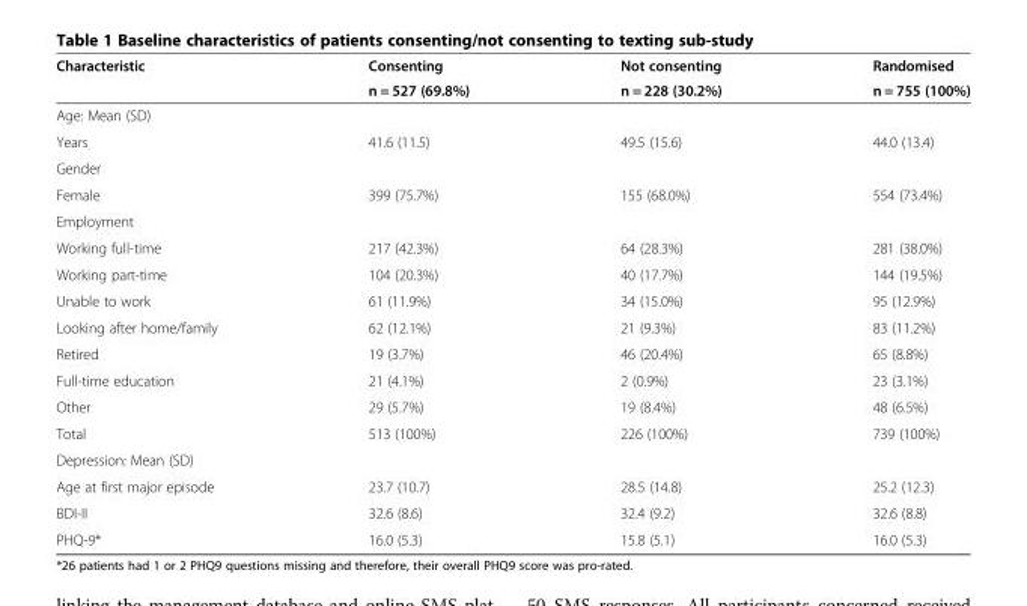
<table><thead><tr><td rowspan="2">Characteristic</td><td rowspan="2">Consenting n = 527 (69.8%)</td><td rowspan="2">Not consenting n = 228 (30.2%)</td><td rowspan="2">Randomised n = 755 (100%)</td></tr><tr></tr></thead><tbody><tr><td colspan="4">Age: Mean (SD)</td></tr><tr><td>Years</td><td>41.6 (11.5)</td><td>49.5 (15.6)</td><td>44.0 (13.4)</td></tr><tr><td colspan="4">Gender</td></tr><tr><td>Female</td><td>399 (75.7%)</td><td>155 (68.0%)</td><td>554 (73.4%)</td></tr><tr><td colspan="4">Employment</td></tr><tr><td>Working full-time</td><td>217 (42.3%)</td><td>64 (28.3%)</td><td>281 (38.0%)</td></tr><tr><td>Working part-time</td><td>104 (20.3%)</td><td>40 (17.7%)</td><td>144 (19.5%)</td></tr><tr><td>Unable to work</td><td>61 (11.9%)</td><td>34 (15.0%)</td><td>95 (12.9%)</td></tr><tr><td>Looking after home/family</td><td>62 (12.1%)</td><td>21 (9.3%)</td><td>83 (11.2%)</td></tr><tr><td>Retired</td><td>19 (3.7%)</td><td>46 (20.4%)</td><td>65 (8.8%)</td></tr><tr><td>Full-time education</td><td>21 (4.1%)</td><td>2 (0.9%)</td><td>23 (3.1%)</td></tr><tr><td>Other</td><td>29 (5.7%)</td><td>19 (8.4%)</td><td>48 (6.5%)</td></tr><tr><td>Total</td><td>513 (100%)</td><td>226 (100%)</td><td>739 (100%)</td></tr><tr><td colspan="4">Depression: Mean (SD)</td></tr><tr><td>Age at first major episode</td><td>23.7 (10.7)</td><td>28.5 (14.8)</td><td>25.2 (12.3)</td></tr><tr><td>BDI-II</td><td>32.6 (8.6)</td><td>32.4 (9.2)</td><td>32.6 (8.8)</td></tr><tr><td>PHQ-9*</td><td>16.0 (5.3)</td><td>15.8 (5.1)</td><td>16.0 (5.3)</td></tr></tbody></table>